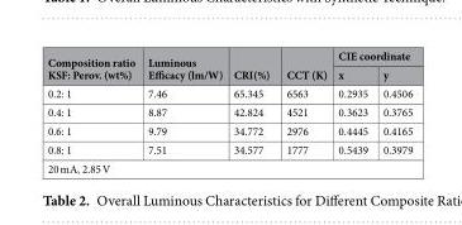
<table><thead><tr><td rowspan="2">Composition ratio KSF: Perov. (wt%)</td><td rowspan="2">Luminous Efficacy (lm/W)</td><td rowspan="2">CRI(%)</td><td rowspan="2">CCT (K)</td><td colspan="2">CIE coordinate</td></tr><tr><td>x</td><td>y</td></tr></thead><tbody><tr><td>0.2: 1</td><td>7.46</td><td>65.345</td><td>6563</td><td>0.2935</td><td>0.4506</td></tr><tr><td>0.4: 1</td><td>8.87</td><td>42.824</td><td>4521</td><td>0.3623</td><td>0.3765</td></tr><tr><td>0.6: 1</td><td>9.79</td><td>34.772</td><td>2976</td><td>0.4445</td><td>0.4165</td></tr><tr><td>0.8: 1</td><td>7.51</td><td>34.577</td><td>1777</td><td>0.5439</td><td>0.3979</td></tr><tr><td colspan="6">20 mA, 2.85 V</td></tr></tbody></table>